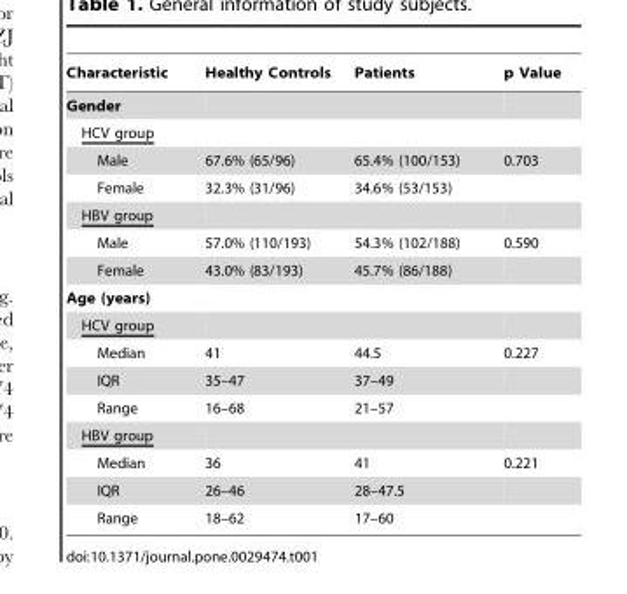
<table><thead><tr><td>Characteristic</td><td>Healthy Controls</td><td>Patients</td><td>p Value</td></tr></thead><tbody><tr><td colspan="4">Gender</td></tr><tr><td colspan="4">HCV group</td></tr><tr><td>Male</td><td>67.6% (65/96)</td><td>65.4% (100/153)</td><td>0.703</td></tr><tr><td>Female</td><td>32.3% (31/96)</td><td>34.6% (53/153)</td><td></td></tr><tr><td colspan="4">HBV group</td></tr><tr><td>Male</td><td>57.0% (110/193)</td><td>54.3% (102/188)</td><td>0.590</td></tr><tr><td>Female</td><td>43.0% (83/193)</td><td>45.7% (86/188)</td><td></td></tr><tr><td colspan="4">Age (years)</td></tr><tr><td colspan="4">HCV group</td></tr><tr><td>Median</td><td>41</td><td>44.5</td><td>0.227</td></tr><tr><td>IQR</td><td>35–47</td><td>37–49</td><td></td></tr><tr><td>Range</td><td>16–68</td><td>21–57</td><td></td></tr><tr><td colspan="4">HBV group</td></tr><tr><td>Median</td><td>36</td><td>41</td><td>0.221</td></tr><tr><td>IQR</td><td>26–46</td><td>28–47.5</td><td></td></tr><tr><td>Range</td><td>18–62</td><td>17–60</td><td></td></tr></tbody></table>